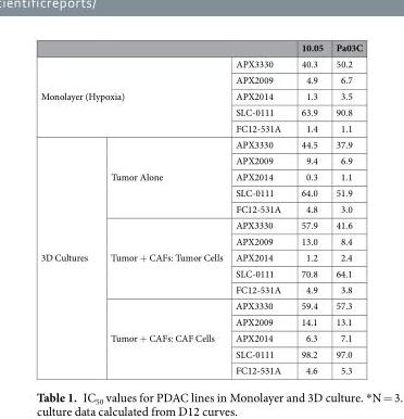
<table><thead><tr><td></td><td></td><td></td><td>10.05</td><td>Pa03C</td></tr></thead><tbody><tr><td rowspan="5" colspan="2">Monolayer (Hypoxia)</td><td>APX3330</td><td>40.3</td><td>50.2</td></tr><tr><td>APX2009</td><td>4.9</td><td>6.7</td></tr><tr><td>APX2014</td><td>1.3</td><td>3.5</td></tr><tr><td>SLC-0111</td><td>63.9</td><td>90.8</td></tr><tr><td>FC12-531A</td><td>1.4</td><td>1.1</td></tr><tr><td rowspan="15">3D Cultures</td><td rowspan="5">Tumor Alone</td><td>APX3330</td><td>44.5</td><td>37.9</td></tr><tr><td>APX2009</td><td>9.4</td><td>6.9</td></tr><tr><td>APX2014</td><td>0.3</td><td>1.1</td></tr><tr><td>SLC-0111</td><td>64.0</td><td>51.9</td></tr><tr><td>FC12-531A</td><td>4.8</td><td>3.0</td></tr><tr><td rowspan="5">Tumor + CAFs: Tumor Cells</td><td>APX3330</td><td>57.9</td><td>41.6</td></tr><tr><td>APX2009</td><td>13.0</td><td>8.4</td></tr><tr><td>APX2014</td><td>1.2</td><td>2.4</td></tr><tr><td>SLC-0111</td><td>70.8</td><td>64.1</td></tr><tr><td>FC12-531A</td><td>4.9</td><td>3.8</td></tr><tr><td rowspan="5">Tumor + CAFs: CAF Cells</td><td>APX3330</td><td>59.4</td><td>57.3</td></tr><tr><td>APX2009</td><td>14.1</td><td>13.1</td></tr><tr><td>APX2014</td><td>6.3</td><td>7.1</td></tr><tr><td>SLC-0111</td><td>98.2</td><td>97.0</td></tr><tr><td>FC12-531A</td><td>4.6</td><td>5.3</td></tr></tbody></table>